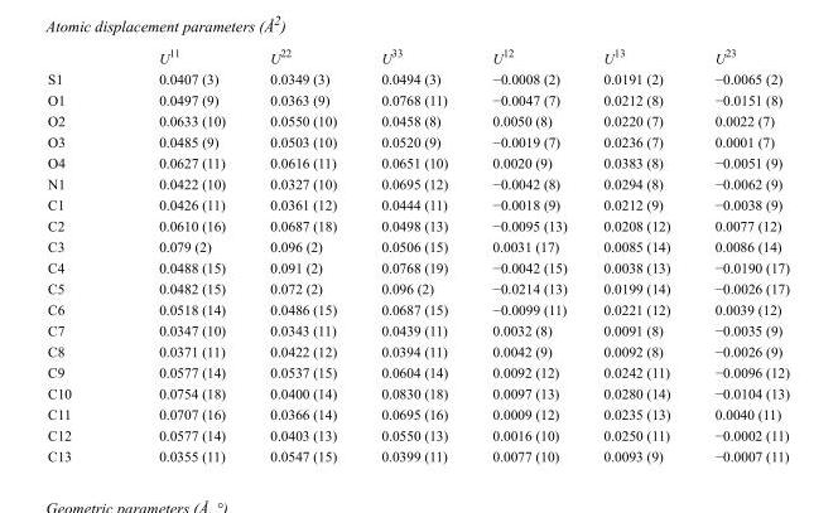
<table><thead><tr><td></td><td>U<sup>11</sup></td><td>U<sup>22</sup></td><td>U<sup>33</sup></td><td>U<sup>12</sup></td><td>U<sup>13</sup></td><td>U<sup>23</sup></td></tr></thead><tbody><tr><td>S1</td><td>0.0407 (3)</td><td>0.0349 (3)</td><td>0.0494 (3)</td><td>−0.0008 (2)</td><td>0.0191 (2)</td><td>−0.0065 (2)</td></tr><tr><td>O1</td><td>0.0497 (9)</td><td>0.0363 (9)</td><td>0.0768 (11)</td><td>−0.0047 (7)</td><td>0.0212 (8)</td><td>−0.0151 (8)</td></tr><tr><td>O2</td><td>0.0633 (10)</td><td>0.0550 (10)</td><td>0.0458 (8)</td><td>0.0050 (8)</td><td>0.0220 (7)</td><td>0.0022 (7)</td></tr><tr><td>O3</td><td>0.0485 (9)</td><td>0.0503 (10)</td><td>0.0520 (9)</td><td>−0.0019 (7)</td><td>0.0236 (7)</td><td>0.0001 (7)</td></tr><tr><td>O4</td><td>0.0627 (11)</td><td>0.0616 (11)</td><td>0.0651 (10)</td><td>0.0020 (9)</td><td>0.0383 (8)</td><td>−0.0051 (9)</td></tr><tr><td>N1</td><td>0.0422 (10)</td><td>0.0327 (10)</td><td>0.0695 (12)</td><td>−0.0042 (8)</td><td>0.0294 (8)</td><td>−0.0062 (9)</td></tr><tr><td>C1</td><td>0.0426 (11)</td><td>0.0361 (12)</td><td>0.0444 (11)</td><td>−0.0018 (9)</td><td>0.0212 (9)</td><td>−0.0038 (9)</td></tr><tr><td>C2</td><td>0.0610 (16)</td><td>0.0687 (18)</td><td>0.0498 (13)</td><td>−0.0095 (13)</td><td>0.0208 (12)</td><td>0.0077 (12)</td></tr><tr><td>C3</td><td>0.079 (2)</td><td>0.096 (2)</td><td>0.0506 (15)</td><td>0.0031 (17)</td><td>0.0085 (14)</td><td>0.0086 (14)</td></tr><tr><td>C4</td><td>0.0488 (15)</td><td>0.091 (2)</td><td>0.0768 (19)</td><td>−0.0042 (15)</td><td>0.0038 (13)</td><td>−0.0190 (17)</td></tr><tr><td>C5</td><td>0.0482 (15)</td><td>0.072 (2)</td><td>0.096 (2)</td><td>−0.0214 (13)</td><td>0.0199 (14)</td><td>−0.0026 (17)</td></tr><tr><td>C6</td><td>0.0518 (14)</td><td>0.0486 (15)</td><td>0.0687 (15)</td><td>−0.0099 (11)</td><td>0.0221 (12)</td><td>0.0039 (12)</td></tr><tr><td>C7</td><td>0.0347 (10)</td><td>0.0343 (11)</td><td>0.0439 (11)</td><td>0.0032 (8)</td><td>0.0091 (8)</td><td>−0.0035 (9)</td></tr><tr><td>C8</td><td>0.0371 (11)</td><td>0.0422 (12)</td><td>0.0394 (11)</td><td>0.0042 (9)</td><td>0.0092 (8)</td><td>−0.0026 (9)</td></tr><tr><td>C9</td><td>0.0577 (14)</td><td>0.0537 (15)</td><td>0.0604 (14)</td><td>0.0092 (12)</td><td>0.0242 (11)</td><td>−0.0096 (12)</td></tr><tr><td>C10</td><td>0.0754 (18)</td><td>0.0400 (14)</td><td>0.0830 (18)</td><td>0.0097 (13)</td><td>0.0280 (14)</td><td>−0.0104 (13)</td></tr><tr><td>C11</td><td>0.0707 (16)</td><td>0.0366 (14)</td><td>0.0695 (16)</td><td>0.0009 (12)</td><td>0.0235 (13)</td><td>0.0040 (11)</td></tr><tr><td>C12</td><td>0.0577 (14)</td><td>0.0403 (13)</td><td>0.0550 (13)</td><td>0.0016 (10)</td><td>0.0250 (11)</td><td>−0.0002 (11)</td></tr><tr><td>C13</td><td>0.0355 (11)</td><td>0.0547 (15)</td><td>0.0399 (11)</td><td>0.0077 (10)</td><td>0.0093 (9)</td><td>−0.0007 (11)</td></tr></tbody></table>